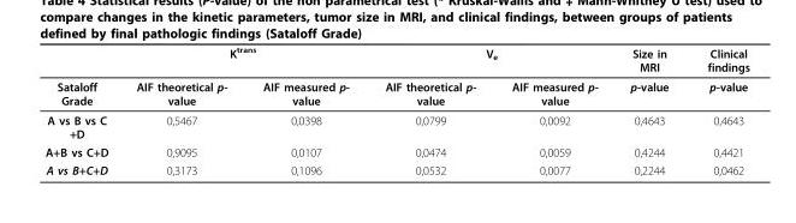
<table><thead><tr><td rowspan="2">Sataloff Grade</td><td colspan="2">Ktrans</td><td colspan="2">Ve</td><td rowspan="2">Size in MRI p-value</td><td rowspan="2">Clinical findings p-value</td></tr><tr><td>AIF theoretical p- value</td><td>AIF measured p- value</td><td>AIF theoretical p- value</td><td>AIF measured p- value</td></tr></thead><tbody><tr><td>A vs B vs C +D</td><td>0,5467</td><td>0,0398</td><td>0,0799</td><td>0,0092</td><td>0,4643</td><td>0,4643</td></tr><tr><td>A+B vs C+D</td><td>0,9095</td><td>0,0107</td><td>0,0474</td><td>0,0059</td><td>0,4244</td><td>0,4421</td></tr><tr><td>A vs B+C+D</td><td>0,3173</td><td>0,1096</td><td>0,0532</td><td>0,0077</td><td>0,2244</td><td>0,0462</td></tr></tbody></table>